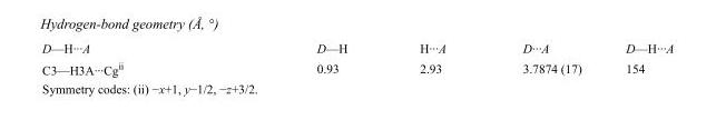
<table><tbody><tr><td>D—H···A</td><td>D—H</td><td>H···A</td><td>D···A</td><td>D—H···A</td></tr><tr><td>C3—H3A···Cg<sup>ii</sup></td><td>0.93</td><td>2.93</td><td>3.7874 (17)</td><td>154</td></tr></tbody></table>